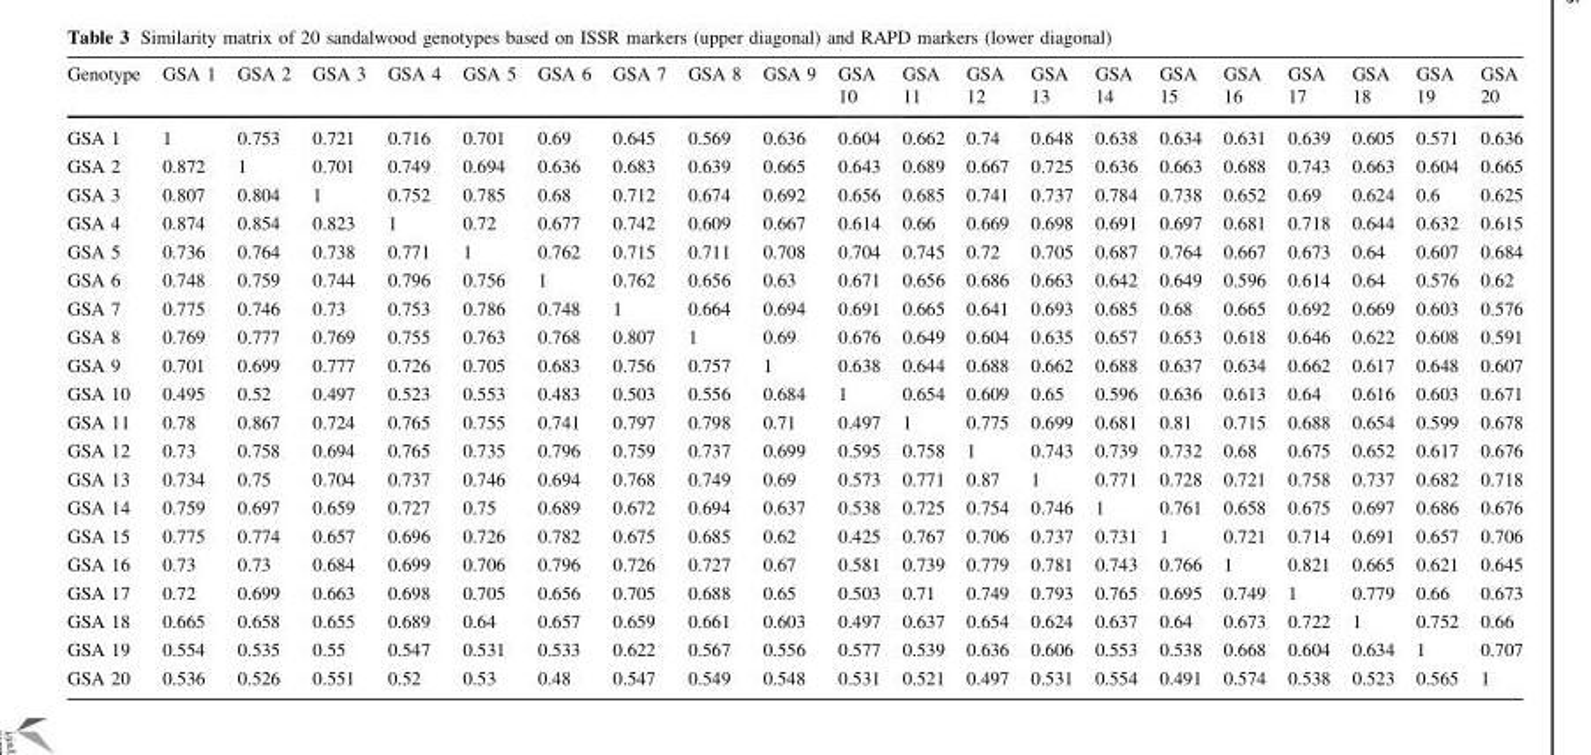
<table><thead><tr><td>Genotype</td><td>GSA 1</td><td>GSA 2</td><td>GSA 3</td><td>GSA 4</td><td>GSA 5</td><td>GSA 6</td><td>GSA 7</td><td>GSA 8</td><td>GSA 9</td><td>GSA 10</td><td>GSA 11</td><td>GSA 12</td><td>GSA 13</td><td>GSA 14</td><td>GSA 15</td><td>GSA 16</td><td>GSA 17</td><td>GSA 18</td><td>GSA 19</td><td>GSA 20</td></tr></thead><tbody><tr><td>GSA 1</td><td>1</td><td>0.753</td><td>0.721</td><td>0.716</td><td>0.701</td><td>0.69</td><td>0.645</td><td>0.569</td><td>0.636</td><td>0.604</td><td>0.662</td><td>0.74</td><td>0.648</td><td>0.638</td><td>0.634</td><td>0.631</td><td>0.639</td><td>0.605</td><td>0.571</td><td>0.636</td></tr><tr><td>GSA 2</td><td>0.872</td><td>1</td><td>0.701</td><td>0.749</td><td>0.694</td><td>0.636</td><td>0.683</td><td>0.639</td><td>0.665</td><td>0.643</td><td>0.689</td><td>0.667</td><td>0.725</td><td>0.636</td><td>0.663</td><td>0.688</td><td>0.743</td><td>0.663</td><td>0.604</td><td>0.665</td></tr><tr><td>GSA 3</td><td>0.807</td><td>0.804</td><td>1</td><td>0.752</td><td>0.785</td><td>0.68</td><td>0.712</td><td>0.674</td><td>0.692</td><td>0.656</td><td>0.685</td><td>0.741</td><td>0.737</td><td>0.784</td><td>0.738</td><td>0.652</td><td>0.69</td><td>0.624</td><td>0.6</td><td>0.625</td></tr><tr><td>GSA 4</td><td>0.874</td><td>0.854</td><td>0.823</td><td>1</td><td>0.72</td><td>0.677</td><td>0.742</td><td>0.609</td><td>0.667</td><td>0.614</td><td>0.66</td><td>0.669</td><td>0.698</td><td>0.691</td><td>0.697</td><td>0.681</td><td>0.718</td><td>0.644</td><td>0.632</td><td>0.615</td></tr><tr><td>GSA 5</td><td>0.736</td><td>0.764</td><td>0.738</td><td>0.771</td><td>1</td><td>0.762</td><td>0.715</td><td>0.711</td><td>0.708</td><td>0.704</td><td>0.745</td><td>0.72</td><td>0.705</td><td>0.687</td><td>0.764</td><td>0.667</td><td>0.673</td><td>0.64</td><td>0.607</td><td>0.684</td></tr><tr><td>GSA 6</td><td>0.748</td><td>0.759</td><td>0.744</td><td>0.796</td><td>0.756</td><td>1</td><td>0.762</td><td>0.656</td><td>0.63</td><td>0.671</td><td>0.656</td><td>0.686</td><td>0.663</td><td>0.642</td><td>0.649</td><td>0.596</td><td>0.614</td><td>0.64</td><td>0.576</td><td>0.62</td></tr><tr><td>GSA 7</td><td>0.775</td><td>0.746</td><td>0.73</td><td>0.753</td><td>0.786</td><td>0.748</td><td>1</td><td>0.664</td><td>0.694</td><td>0.691</td><td>0.665</td><td>0.641</td><td>0.693</td><td>0.685</td><td>0.68</td><td>0.665</td><td>0.692</td><td>0.669</td><td>0.603</td><td>0.576</td></tr><tr><td>GSA 8</td><td>0.769</td><td>0.777</td><td>0.769</td><td>0.755</td><td>0.763</td><td>0.768</td><td>0.807</td><td>1</td><td>0.69</td><td>0.676</td><td>0.649</td><td>0.604</td><td>0.635</td><td>0.657</td><td>0.653</td><td>0.618</td><td>0.646</td><td>0.622</td><td>0.608</td><td>0.591</td></tr><tr><td>GSA 9</td><td>0.701</td><td>0.699</td><td>0.777</td><td>0.726</td><td>0.705</td><td>0.683</td><td>0.756</td><td>0.757</td><td>1</td><td>0.638</td><td>0.644</td><td>0.688</td><td>0.662</td><td>0.688</td><td>0.637</td><td>0.634</td><td>0.662</td><td>0.617</td><td>0.648</td><td>0.607</td></tr><tr><td>GSA 10</td><td>0.495</td><td>0.52</td><td>0.497</td><td>0.523</td><td>0.553</td><td>0.483</td><td>0.503</td><td>0.556</td><td>0.684</td><td>1</td><td>0.654</td><td>0.609</td><td>0.65</td><td>0.596</td><td>0.636</td><td>0.613</td><td>0.64</td><td>0.616</td><td>0.603</td><td>0.671</td></tr><tr><td>GSA 11</td><td>0.78</td><td>0.867</td><td>0.724</td><td>0.765</td><td>0.755</td><td>0.741</td><td>0.797</td><td>0.798</td><td>0.71</td><td>0.497</td><td>1</td><td>0.775</td><td>0.699</td><td>0.681</td><td>0.81</td><td>0.715</td><td>0.688</td><td>0.654</td><td>0.599</td><td>0.678</td></tr><tr><td>GSA 12</td><td>0.73</td><td>0.758</td><td>0.694</td><td>0.765</td><td>0.735</td><td>0.796</td><td>0.759</td><td>0.737</td><td>0.699</td><td>0.595</td><td>0.758</td><td>1</td><td>0.743</td><td>0.739</td><td>0.732</td><td>0.68</td><td>0.675</td><td>0.652</td><td>0.617</td><td>0.676</td></tr><tr><td>GSA 13</td><td>0.734</td><td>0.75</td><td>0.704</td><td>0.737</td><td>0.746</td><td>0.694</td><td>0.768</td><td>0.749</td><td>0.69</td><td>0.573</td><td>0.771</td><td>0.87</td><td>1</td><td>0.771</td><td>0.728</td><td>0.721</td><td>0.758</td><td>0.737</td><td>0.682</td><td>0.718</td></tr><tr><td>GSA 14</td><td>0.759</td><td>0.697</td><td>0.659</td><td>0.727</td><td>0.75</td><td>0.689</td><td>0.672</td><td>0.694</td><td>0.637</td><td>0.538</td><td>0.725</td><td>0.754</td><td>0.746</td><td>1</td><td>0.761</td><td>0.658</td><td>0.675</td><td>0.697</td><td>0.686</td><td>0.676</td></tr><tr><td>GSA 15</td><td>0.775</td><td>0.774</td><td>0.657</td><td>0.696</td><td>0.726</td><td>0.782</td><td>0.675</td><td>0.685</td><td>0.62</td><td>0.425</td><td>0.767</td><td>0.706</td><td>0.737</td><td>0.731</td><td>1</td><td>0.721</td><td>0.714</td><td>0.691</td><td>0.657</td><td>0.706</td></tr><tr><td>GSA 16</td><td>0.73</td><td>0.73</td><td>0.684</td><td>0.699</td><td>0.706</td><td>0.796</td><td>0.726</td><td>0.727</td><td>0.67</td><td>0.581</td><td>0.739</td><td>0.779</td><td>0.781</td><td>0.743</td><td>0.766</td><td>1</td><td>0.821</td><td>0.665</td><td>0.621</td><td>0.645</td></tr><tr><td>GSA 17</td><td>0.72</td><td>0.699</td><td>0.663</td><td>0.698</td><td>0.705</td><td>0.656</td><td>0.705</td><td>0.688</td><td>0.65</td><td>0.503</td><td>0.71</td><td>0.749</td><td>0.793</td><td>0.765</td><td>0.695</td><td>0.749</td><td>1</td><td>0.779</td><td>0.66</td><td>0.673</td></tr><tr><td>GSA 18</td><td>0.665</td><td>0.658</td><td>0.655</td><td>0.689</td><td>0.64</td><td>0.657</td><td>0.659</td><td>0.661</td><td>0.603</td><td>0.497</td><td>0.637</td><td>0.654</td><td>0.624</td><td>0.637</td><td>0.64</td><td>0.673</td><td>0.722</td><td>1</td><td>0.752</td><td>0.66</td></tr><tr><td>GSA 19</td><td>0.554</td><td>0.535</td><td>0.55</td><td>0.547</td><td>0.531</td><td>0.533</td><td>0.622</td><td>0.567</td><td>0.556</td><td>0.577</td><td>0.539</td><td>0.636</td><td>0.606</td><td>0.553</td><td>0.538</td><td>0.668</td><td>0.604</td><td>0.634</td><td>1</td><td>0.707</td></tr><tr><td>GSA 20</td><td>0.536</td><td>0.526</td><td>0.551</td><td>0.52</td><td>0.53</td><td>0.48</td><td>0.547</td><td>0.549</td><td>0.548</td><td>0.531</td><td>0.521</td><td>0.497</td><td>0.531</td><td>0.554</td><td>0.491</td><td>0.574</td><td>0.538</td><td>0.523</td><td>0.565</td><td>1</td></tr></tbody></table>